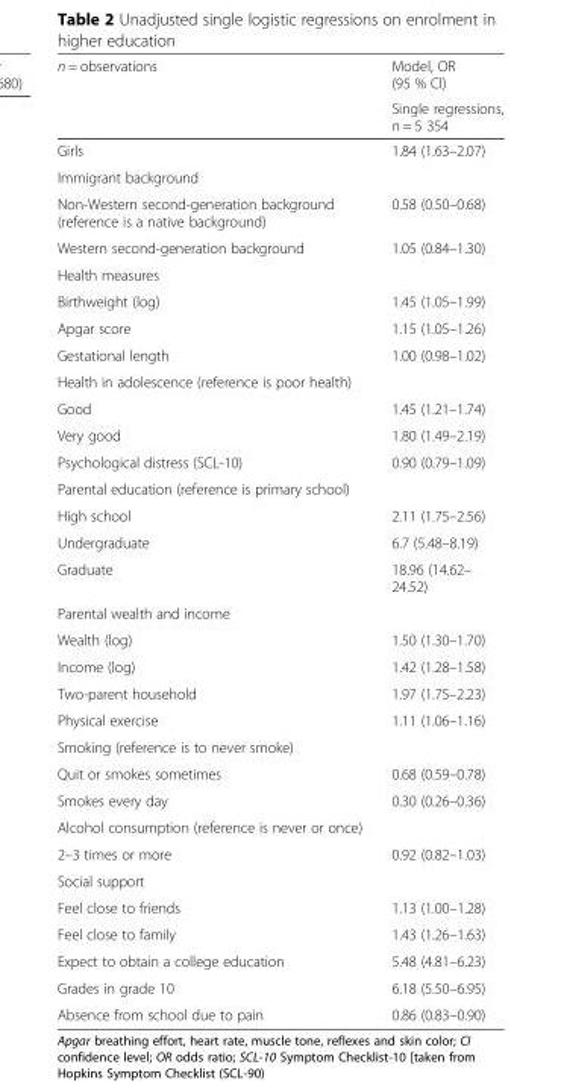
<table><thead><tr><td rowspan="2">n = observations</td><td rowspan="2">Model, OR (95 % Cl) Single regressions, n = 5 354</td></tr><tr></tr></thead><tbody><tr><td>Girls</td><td>1.84 (1.63–2.07)</td></tr><tr><td colspan="2">Immigrant background</td></tr><tr><td>Non-Western second-generation background (reference is a native background)</td><td>0.58 (0.50–0.68)</td></tr><tr><td>Western second-generation background</td><td>1.05 (0.84–1.30)</td></tr><tr><td colspan="2">Health measures</td></tr><tr><td>Birthweight (log)</td><td>1.45 (1.05–1.99)</td></tr><tr><td>Apgar score</td><td>1.15 (1.05–1.26)</td></tr><tr><td>Gestational length</td><td>1.00 (0.98–1.02)</td></tr><tr><td colspan="2">Health in adolescence (reference is poor health)</td></tr><tr><td>Good</td><td>1.45 (1.21–1.74)</td></tr><tr><td>Very good</td><td>1.80 (1.49–2.19)</td></tr><tr><td>Psychological distress (SCL-10)</td><td>0.90 (0.79–1.09)</td></tr><tr><td colspan="2">Parental education (reference is primary school)</td></tr><tr><td>High school</td><td>2.11 (1.75–2.56)</td></tr><tr><td>Undergraduate</td><td>6.7 (5.48–8.19)</td></tr><tr><td>Graduate</td><td>18.96 (14.62– 24.52)</td></tr><tr><td colspan="2">Parental wealth and income</td></tr><tr><td>Wealth (log)</td><td>1.50 (1.30–1.70)</td></tr><tr><td>Income (log)</td><td>1.42 (1.28–1.58)</td></tr><tr><td>Two-parent household</td><td>1.97 (1.75–2.23)</td></tr><tr><td>Physical exercise</td><td>1.11 (1.06–1.16)</td></tr><tr><td colspan="2">Smoking (reference is to never smoke)</td></tr><tr><td>Quit or smokes sometimes</td><td>0.68 (0.59–0.78)</td></tr><tr><td>Smokes every day</td><td>0.30 (0.26–0.36)</td></tr><tr><td colspan="2">Alcohol consumption (reference is never or once)</td></tr><tr><td>2–3 times or more</td><td>0.92 (0.82–1.03)</td></tr><tr><td colspan="2">Social support</td></tr><tr><td>Feel close to friends</td><td>1.13 (1.00–1.28)</td></tr><tr><td>Feel close to family</td><td>1.43 (1.26–1.63)</td></tr><tr><td>Expect to obtain a college education</td><td>5.48 (4.81–6.23)</td></tr><tr><td>Grades in grade 10</td><td>6.18 (5.50–6.95)</td></tr><tr><td>Absence from school due to pain</td><td>0.86 (0.83–0.90)</td></tr></tbody></table>